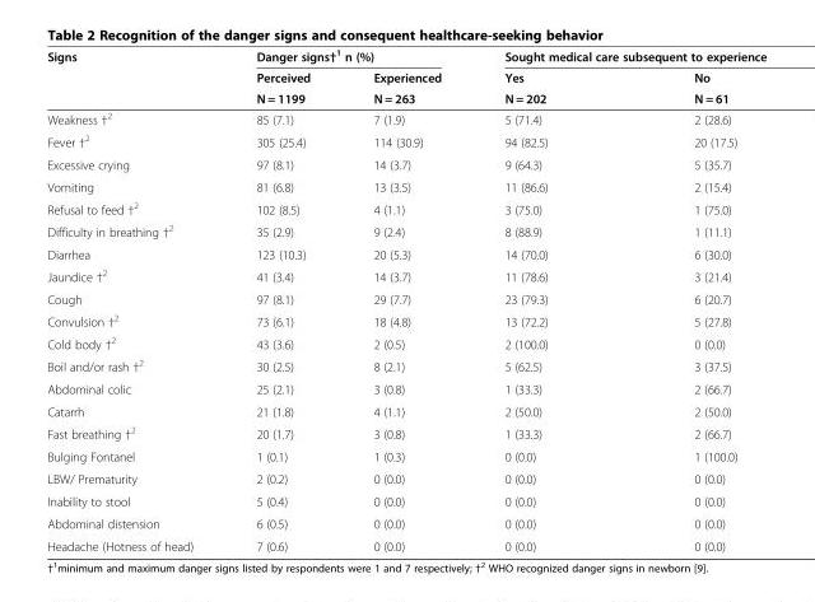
<table><thead><tr><td rowspan="3">Signs</td><td colspan="2">Danger signs†<sup>1</sup> n (%)</td><td colspan="2">Sought medical care subsequent to experience</td></tr><tr><td rowspan="2">Perceived N = 1199</td><td rowspan="2">Experienced N = 263</td><td rowspan="2">Yes N = 202</td><td rowspan="2">No N = 61</td></tr><tr></tr></thead><tbody><tr><td>Weakness †<sup>2</sup></td><td>85 (7.1)</td><td>7 (1.9)</td><td>5 (71.4)</td><td>2 (28.6)</td></tr><tr><td>Fever †<sup>2</sup></td><td>305 (25.4)</td><td>114 (30.9)</td><td>94 (82.5)</td><td>20 (17.5)</td></tr><tr><td>Excessive crying</td><td>97 (8.1)</td><td>14 (3.7)</td><td>9 (64.3)</td><td>5 (35.7)</td></tr><tr><td>Vomiting</td><td>81 (6.8)</td><td>13 (3.5)</td><td>11 (86.6)</td><td>2 (15.4)</td></tr><tr><td>Refusal to feed †<sup>2</sup></td><td>102 (8.5)</td><td>4 (1.1)</td><td>3 (75.0)</td><td>1 (75.0)</td></tr><tr><td>Difficulty in breathing †<sup>2</sup></td><td>35 (2.9)</td><td>9 (2.4)</td><td>8 (88.9)</td><td>1 (11.1)</td></tr><tr><td>Diarrhea</td><td>123 (10.3)</td><td>20 (5.3)</td><td>14 (70.0)</td><td>6 (30.0)</td></tr><tr><td>Jaundice †<sup>2</sup></td><td>41 (3.4)</td><td>14 (3.7)</td><td>11 (78.6)</td><td>3 (21.4)</td></tr><tr><td>Cough</td><td>97 (8.1)</td><td>29 (7.7)</td><td>23 (79.3)</td><td>6 (20.7)</td></tr><tr><td>Convulsion †<sup>2</sup></td><td>73 (6.1)</td><td>18 (4.8)</td><td>13 (72.2)</td><td>5 (27.8)</td></tr><tr><td>Cold body †<sup>2</sup></td><td>43 (3.6)</td><td>2 (0.5)</td><td>2 (100.0)</td><td>0 (0.0)</td></tr><tr><td>Boil and/or rash †<sup>2</sup></td><td>30 (2.5)</td><td>8 (2.1)</td><td>5 (62.5)</td><td>3 (37.5)</td></tr><tr><td>Abdominal colic</td><td>25 (2.1)</td><td>3 (0.8)</td><td>1 (33.3)</td><td>2 (66.7)</td></tr><tr><td>Catarrh</td><td>21 (1.8)</td><td>4 (1.1)</td><td>2 (50.0)</td><td>2 (50.0)</td></tr><tr><td>Fast breathing †<sup>2</sup></td><td>20 (1.7)</td><td>3 (0.8)</td><td>1 (33.3)</td><td>2 (66.7)</td></tr><tr><td>Bulging Fontanel</td><td>1 (0.1)</td><td>1 (0.3)</td><td>0 (0.0)</td><td>1 (100.0)</td></tr><tr><td>LBW/ Prematurity</td><td>2 (0.2)</td><td>0 (0.0)</td><td>0 (0.0)</td><td>0 (0.0)</td></tr><tr><td>Inability to stool</td><td>5 (0.4)</td><td>0 (0.0)</td><td>0 (0.0)</td><td>0 (0.0)</td></tr><tr><td>Abdominal distension</td><td>6 (0.5)</td><td>0 (0.0)</td><td>0 (0.0)</td><td>0 (0.0)</td></tr><tr><td>Headache (Hotness of head)</td><td>7 (0.6)</td><td>0 (0.0)</td><td>0 (0.0)</td><td>0 (0.0)</td></tr></tbody></table>